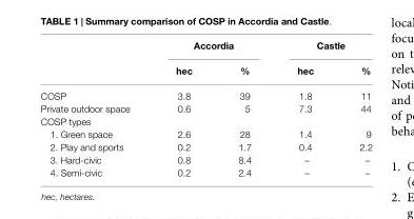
<table><thead><tr><td rowspan="2"></td><td colspan="2">Accordia</td><td colspan="2">Castle</td></tr><tr><td>hec</td><td>%</td><td>hec</td><td>%</td></tr></thead><tbody><tr><td>COSP</td><td>3.8</td><td>39</td><td>1.8</td><td>11</td></tr><tr><td>Private outdoor space</td><td>0.6</td><td>5</td><td>7.3</td><td>44</td></tr><tr><td colspan="5">COSP types</td></tr><tr><td>1. Green space</td><td>2.6</td><td>28</td><td>1.4</td><td>9</td></tr><tr><td>2. Play and sports</td><td>0.2</td><td>1.7</td><td>0.4</td><td>2.2</td></tr><tr><td>3. Hard-civic</td><td>0.8</td><td>8.4</td><td>–</td><td>–</td></tr><tr><td>4. Semi-civic</td><td>0.2</td><td>2.4</td><td>–</td><td>–</td></tr></tbody></table>